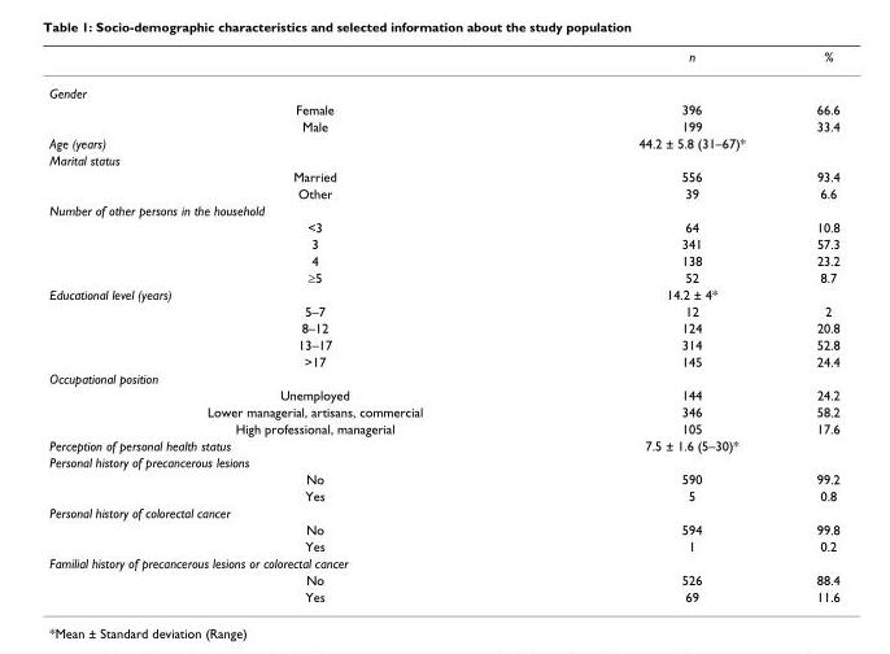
<table><thead><tr><td></td><td>n</td><td>%</td></tr></thead><tbody><tr><td colspan="3">Gender</td></tr><tr><td>Female</td><td>396</td><td>66.6</td></tr><tr><td>Male</td><td>199</td><td>33.4</td></tr><tr><td>Age (years)</td><td>44.2 ± 5.8 (31–67)*</td><td></td></tr><tr><td colspan="3">Marital status</td></tr><tr><td>Married</td><td>556</td><td>93.4</td></tr><tr><td>Other</td><td>39</td><td>6.6</td></tr><tr><td colspan="3">Number of other persons in the household</td></tr><tr><td>&lt;3</td><td>64</td><td>10.8</td></tr><tr><td>3</td><td>341</td><td>57.3</td></tr><tr><td>4</td><td>138</td><td>23.2</td></tr><tr><td>≥5</td><td>52</td><td>8.7</td></tr><tr><td>Educational level (years)</td><td>14.2 ± 4*</td><td></td></tr><tr><td>5–7</td><td>12</td><td>2</td></tr><tr><td>8–12</td><td>124</td><td>20.8</td></tr><tr><td>13–17</td><td>314</td><td>52.8</td></tr><tr><td>&gt;17</td><td>145</td><td>24.4</td></tr><tr><td colspan="3">Occupational position</td></tr><tr><td>Unemployed</td><td>144</td><td>24.2</td></tr><tr><td>Lower managerial, artisans, commercial</td><td>346</td><td>58.2</td></tr><tr><td>High professional, managerial</td><td>105</td><td>17.6</td></tr><tr><td>Perception of personal health status</td><td>7.5 ± 1.6 (5–30)*</td><td></td></tr><tr><td colspan="3">Personal history of precancerous lesions</td></tr><tr><td>No</td><td>590</td><td>99.2</td></tr><tr><td>Yes</td><td>5</td><td>0.8</td></tr><tr><td colspan="3">Personal history of colorectal cancer</td></tr><tr><td>No</td><td>594</td><td>99.8</td></tr><tr><td>Yes</td><td>1</td><td>0.2</td></tr><tr><td colspan="3">Familial history of precancerous lesions or colorectal cancer</td></tr><tr><td>No</td><td>526</td><td>88.4</td></tr><tr><td>Yes</td><td>69</td><td>11.6</td></tr></tbody></table>